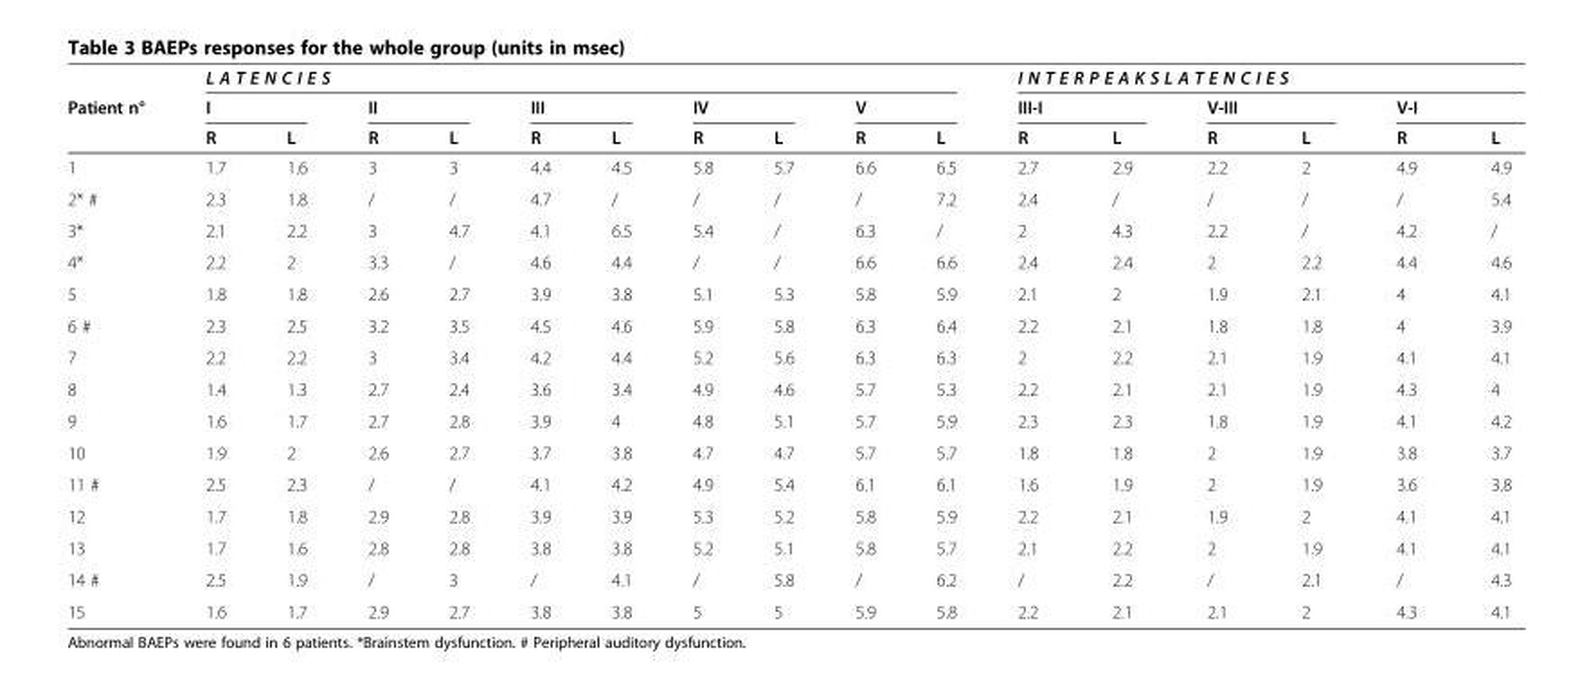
<table><thead><tr><td rowspan="3">Patient n°</td><td colspan="10">L A T E N C I E S</td><td colspan="6">I N T E R P E A K S L A T E N C I E S</td></tr><tr><td colspan="2">I</td><td colspan="2">II</td><td colspan="2">III</td><td colspan="2">IV</td><td colspan="2">V</td><td colspan="2">III-I</td><td colspan="2">V-III</td><td colspan="2">V-I</td></tr><tr><td>R</td><td>L</td><td>R</td><td>L</td><td>R</td><td>L</td><td>R</td><td>L</td><td>R</td><td>L</td><td>R</td><td>L</td><td>R</td><td>L</td><td>R</td><td>L</td></tr></thead><tbody><tr><td>1</td><td>1.7</td><td>1.6</td><td>3</td><td>3</td><td>4.4</td><td>4.5</td><td>5.8</td><td>5.7</td><td>6.6</td><td>6.5</td><td>2.7</td><td>2.9</td><td>2.2</td><td>2</td><td>4.9</td><td>4.9</td></tr><tr><td>2* #</td><td>2.3</td><td>1.8</td><td>/</td><td>/</td><td>4.7</td><td>/</td><td>/</td><td>/</td><td>/</td><td>7.2</td><td>2.4</td><td>/</td><td>/</td><td>/</td><td>/</td><td>5.4</td></tr><tr><td>3*</td><td>2.1</td><td>2.2</td><td>3</td><td>4.7</td><td>4.1</td><td>6.5</td><td>5.4</td><td>/</td><td>6.3</td><td>/</td><td>2</td><td>4.3</td><td>2.2</td><td>/</td><td>4.2</td><td>/</td></tr><tr><td>4*</td><td>2.2</td><td>2</td><td>3.3</td><td>/</td><td>4.6</td><td>4.4</td><td>/</td><td>/</td><td>6.6</td><td>6.6</td><td>2.4</td><td>2.4</td><td>2</td><td>2.2</td><td>4.4</td><td>4.6</td></tr><tr><td>5</td><td>1.8</td><td>1.8</td><td>2.6</td><td>2.7</td><td>3.9</td><td>3.8</td><td>5.1</td><td>5.3</td><td>5.8</td><td>5.9</td><td>2.1</td><td>2</td><td>1.9</td><td>2.1</td><td>4</td><td>4.1</td></tr><tr><td>6 #</td><td>2.3</td><td>2.5</td><td>3.2</td><td>3.5</td><td>4.5</td><td>4.6</td><td>5.9</td><td>5.8</td><td>6.3</td><td>6.4</td><td>2.2</td><td>2.1</td><td>1.8</td><td>1.8</td><td>4</td><td>3.9</td></tr><tr><td>7</td><td>2.2</td><td>2.2</td><td>3</td><td>3.4</td><td>4.2</td><td>4.4</td><td>5.2</td><td>5.6</td><td>6.3</td><td>6.3</td><td>2</td><td>2.2</td><td>2.1</td><td>1.9</td><td>4.1</td><td>4.1</td></tr><tr><td>8</td><td>1.4</td><td>1.3</td><td>2.7</td><td>2.4</td><td>3.6</td><td>3.4</td><td>4.9</td><td>4.6</td><td>5.7</td><td>5.3</td><td>2.2</td><td>2.1</td><td>2.1</td><td>1.9</td><td>4.3</td><td>4</td></tr><tr><td>9</td><td>1.6</td><td>1.7</td><td>2.7</td><td>2.8</td><td>3.9</td><td>4</td><td>4.8</td><td>5.1</td><td>5.7</td><td>5.9</td><td>2.3</td><td>2.3</td><td>1.8</td><td>1.9</td><td>4.1</td><td>4.2</td></tr><tr><td>10</td><td>1.9</td><td>2</td><td>2.6</td><td>2.7</td><td>3.7</td><td>3.8</td><td>4.7</td><td>4.7</td><td>5.7</td><td>5.7</td><td>1.8</td><td>1.8</td><td>2</td><td>1.9</td><td>3.8</td><td>3.7</td></tr><tr><td>11 #</td><td>2.5</td><td>2.3</td><td>/</td><td>/</td><td>4.1</td><td>4.2</td><td>4.9</td><td>5.4</td><td>6.1</td><td>6.1</td><td>1.6</td><td>1.9</td><td>2</td><td>1.9</td><td>3.6</td><td>3.8</td></tr><tr><td>12</td><td>1.7</td><td>1.8</td><td>2.9</td><td>2.8</td><td>3.9</td><td>3.9</td><td>5.3</td><td>5.2</td><td>5.8</td><td>5.9</td><td>2.2</td><td>2.1</td><td>1.9</td><td>2</td><td>4.1</td><td>4.1</td></tr><tr><td>13</td><td>1.7</td><td>1.6</td><td>2.8</td><td>2.8</td><td>3.8</td><td>3.8</td><td>5.2</td><td>5.1</td><td>5.8</td><td>5.7</td><td>2.1</td><td>2.2</td><td>2</td><td>1.9</td><td>4.1</td><td>4.1</td></tr><tr><td>14 #</td><td>2.5</td><td>1.9</td><td>/</td><td>3</td><td>/</td><td>4.1</td><td>/</td><td>5.8</td><td>/</td><td>6.2</td><td>/</td><td>2.2</td><td>/</td><td>2.1</td><td>/</td><td>4.3</td></tr><tr><td>15</td><td>1.6</td><td>1.7</td><td>2.9</td><td>2.7</td><td>3.8</td><td>3.8</td><td>5</td><td>5</td><td>5.9</td><td>5.8</td><td>2.2</td><td>2.1</td><td>2.1</td><td>2</td><td>4.3</td><td>4.1</td></tr></tbody></table>